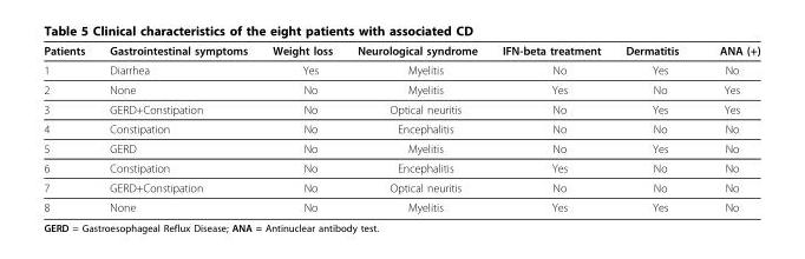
<table><thead><tr><td>Patients</td><td>Gastrointestinal symptoms</td><td>Weight loss</td><td>Neurological syndrome</td><td>IFN-beta treatment</td><td>Dermatitis</td><td>ANA (+)</td></tr></thead><tbody><tr><td>1</td><td>Diarrhea</td><td>Yes</td><td>Myelitis</td><td>No</td><td>Yes</td><td>No</td></tr><tr><td>2</td><td>None</td><td>No</td><td>Myelitis</td><td>Yes</td><td>No</td><td>Yes</td></tr><tr><td>3</td><td>GERD+Constipation</td><td>No</td><td>Optical neuritis</td><td>No</td><td>Yes</td><td>Yes</td></tr><tr><td>4</td><td>Constipation</td><td>No</td><td>Encephalitis</td><td>No</td><td>No</td><td>No</td></tr><tr><td>5</td><td>GERD</td><td>No</td><td>Myelitis</td><td>No</td><td>Yes</td><td>No</td></tr><tr><td>6</td><td>Constipation</td><td>No</td><td>Encephalitis</td><td>Yes</td><td>No</td><td>No</td></tr><tr><td>7</td><td>GERD+Constipation</td><td>No</td><td>Optical neuritis</td><td>No</td><td>No</td><td>No</td></tr><tr><td>8</td><td>None</td><td>No</td><td>Myelitis</td><td>Yes</td><td>Yes</td><td>No</td></tr></tbody></table>